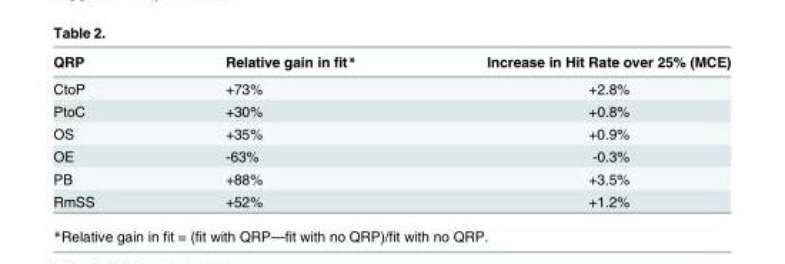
<table><thead><tr><td>QRP</td><td>Relative gain in fit*</td><td>Increase in Hit Rate over 25% (MCE)</td></tr></thead><tbody><tr><td>CtoP</td><td>+73%</td><td>+2.8%</td></tr><tr><td>PtoC</td><td>+30%</td><td>+0.8%</td></tr><tr><td>OS</td><td>+35%</td><td>+0.9%</td></tr><tr><td>OE</td><td>-63%</td><td>-0.3%</td></tr><tr><td>PB</td><td>+88%</td><td>+3.5%</td></tr><tr><td>RmSS</td><td>+52%</td><td>+1.2%</td></tr></tbody></table>